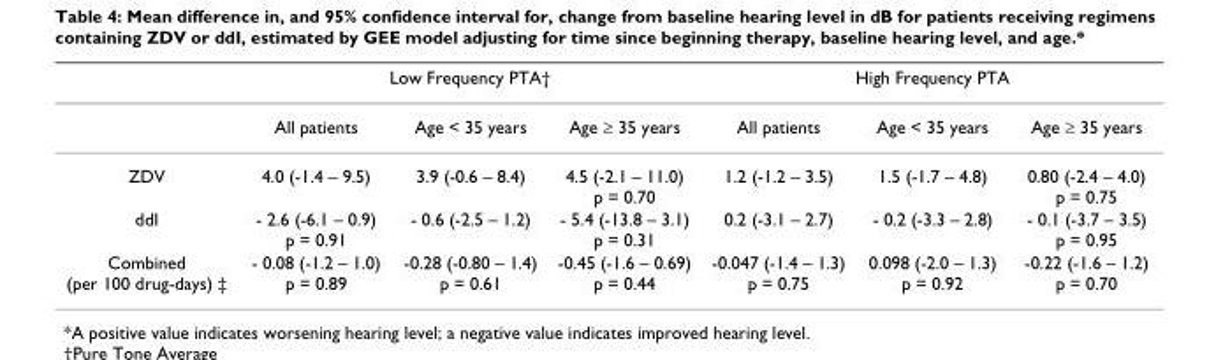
<table><thead><tr><td rowspan="2"></td><td colspan="3">Low Frequency PTA†</td><td colspan="3">High Frequency PTA</td></tr><tr><td>All patients</td><td>Age &lt; 35 years</td><td>Age ≥ 35 years</td><td>All patients</td><td>Age &lt; 35 years</td><td>Age ≥ 35 years</td></tr></thead><tbody><tr><td>ZDV</td><td>4.0 (-1.4 – 9.5)</td><td>3.9 (-0.6 – 8.4)</td><td>4.5 (-2.1 – 11.0) p = 0.70</td><td>1.2 (-1.2 – 3.5)</td><td>1.5 (-1.7 – 4.8)</td><td>0.80 (-2.4 – 4.0) p = 0.75</td></tr><tr><td>ddI</td><td>- 2.6 (-6.1 – 0.9) p = 0.91</td><td>- 0.6 (-2.5 – 1.2)</td><td>- 5.4 (-13.8 – 3.1) p = 0.31</td><td>0.2 (-3.1 – 2.7)</td><td>- 0.2 (-3.3 – 2.8)</td><td>- 0.1 (-3.7 – 3.5) p = 0.95</td></tr><tr><td>Combined (per 100 drug-days) ‡</td><td>- 0.08 (-1.2 – 1.0) p = 0.89</td><td>-0.28 (-0.80 – 1.4) p = 0.61</td><td>-0.45 (-1.6 – 0.69) p = 0.44</td><td>-0.047 (-1.4 – 1.3) p = 0.75</td><td>0.098 (-2.0 – 1.3) p = 0.92</td><td>-0.22 (-1.6 – 1.2) p = 0.70</td></tr></tbody></table>